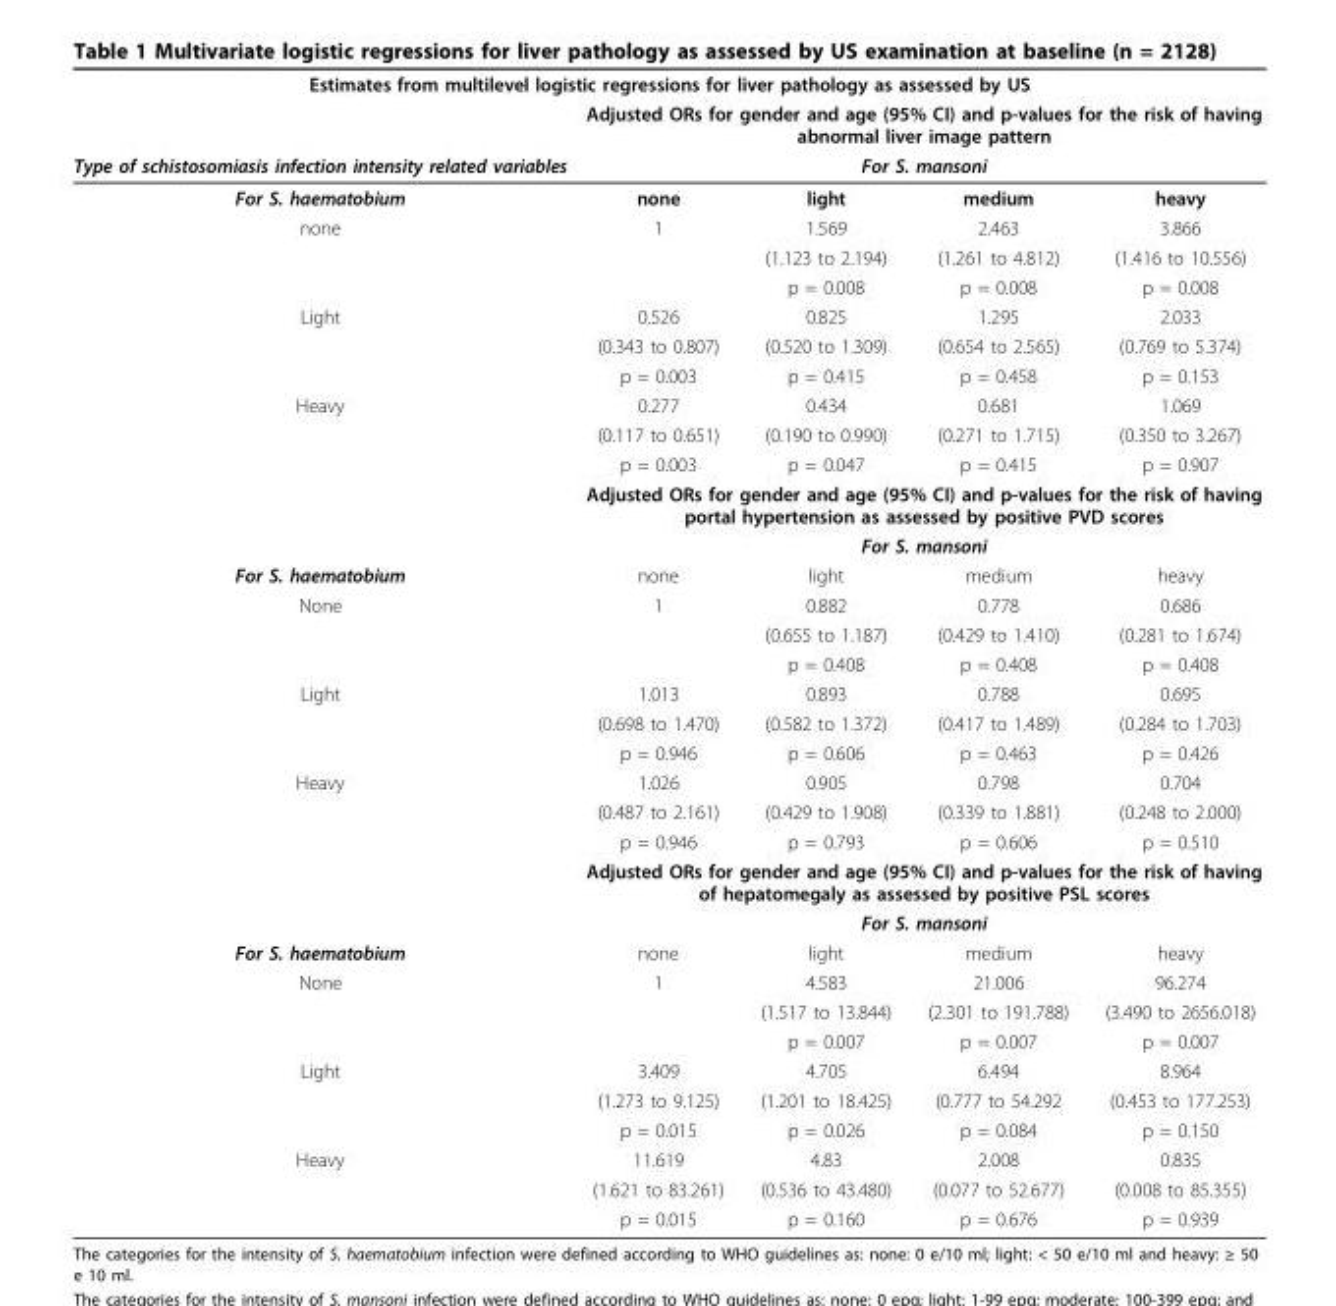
<table><thead><tr><td colspan="5">Estimates from multilevel logistic regressions for liver pathology as assessed by US</td></tr><tr><td rowspan="3">Type of schistosomiasis infection intensity related variables For S. haematobium</td><td rowspan="2" colspan="4">Adjusted ORs for gender and age (95% CI) and p-values for the risk of having abnormal liver image pattern For S. mansoni</td></tr><tr></tr><tr><td>none</td><td>light</td><td>medium</td><td>heavy</td></tr></thead><tbody><tr><td rowspan="3">none</td><td>1</td><td>1.569</td><td>2.463</td><td>3.866</td></tr><tr><td></td><td>(1.123 to 2.194)</td><td>(1.261 to 4.812)</td><td>(1.416 to 10.556)</td></tr><tr><td></td><td>p = 0.008</td><td>p = 0.008</td><td>p = 0.008</td></tr><tr><td rowspan="3">Light</td><td>0.526</td><td>0.825</td><td>1.295</td><td>2.033</td></tr><tr><td>(0.343 to 0.807)</td><td>(0.520 to 1.309)</td><td>(0.654 to 2.565)</td><td>(0.769 to 5.374)</td></tr><tr><td>p = 0.003</td><td>p = 0.415</td><td>p = 0.458</td><td>p = 0.153</td></tr><tr><td rowspan="5">Heavy</td><td>0.277</td><td>0.434</td><td>0.681</td><td>1.069</td></tr><tr><td>(0.117 to 0.651)</td><td>(0.190 to 0.990)</td><td>(0.271 to 1.715)</td><td>(0.350 to 3.267)</td></tr><tr><td>p = 0.003</td><td>p = 0.047</td><td>p = 0.415</td><td>p = 0.907</td></tr><tr><td colspan="4">Adjusted ORs for gender and age (95% CI) and p-values for the risk of having portal hypertension as assessed by positive PVD scores</td></tr><tr><td colspan="4">For S. mansoni</td></tr><tr><td>For S. haematobium</td><td>none</td><td>light</td><td>medium</td><td>heavy</td></tr><tr><td rowspan="3">None</td><td>1</td><td>0.882</td><td>0.778</td><td>0.686</td></tr><tr><td></td><td>(0.655 to 1.187)</td><td>(0.429 to 1.410)</td><td>(0.281 to 1.674)</td></tr><tr><td></td><td>p = 0.408</td><td>p = 0.408</td><td>p = 0.408</td></tr><tr><td rowspan="3">Light</td><td>1.013</td><td>0.893</td><td>0.788</td><td>0.695</td></tr><tr><td>(0.698 to 1.470)</td><td>(0.582 to 1.372)</td><td>(0.417 to 1.489)</td><td>(0.284 to 1.703)</td></tr><tr><td>p = 0.946</td><td>p = 0.606</td><td>p = 0.463</td><td>p = 0.426</td></tr><tr><td rowspan="5">Heavy</td><td>1.026</td><td>0.905</td><td>0.798</td><td>0.704</td></tr><tr><td>(0.487 to 2.161)</td><td>(0.429 to 1.908)</td><td>(0.339 to 1.881)</td><td>(0.248 to 2.000)</td></tr><tr><td>p = 0.946</td><td>p = 0.793</td><td>p = 0.606</td><td>p = 0.510</td></tr><tr><td colspan="4">Adjusted ORs for gender and age (95% CI) and p-values for the risk of having of hepatomegaly as assessed by positive PSL scores</td></tr><tr><td colspan="4">For S. mansoni</td></tr><tr><td>For S. haematobium</td><td>none</td><td>light</td><td>medium</td><td>heavy</td></tr><tr><td rowspan="3">None</td><td>1</td><td>4.583</td><td>21.006</td><td>96.274</td></tr><tr><td></td><td>(1.517 to 13.844)</td><td>(2.301 to 191.788)</td><td>(3.490 to 2656.018)</td></tr><tr><td></td><td>p = 0.007</td><td>p = 0.007</td><td>p = 0.007</td></tr><tr><td rowspan="3">Light</td><td>3.409</td><td>4.705</td><td>6.494</td><td>8.964</td></tr><tr><td>(1.273 to 9.125)</td><td>(1.201 to 18.425)</td><td>(0.777 to 54.292</td><td>(0.453 to 177.253)</td></tr><tr><td>p = 0.015</td><td>p = 0.026</td><td>p = 0.084</td><td>p = 0.150</td></tr><tr><td rowspan="3">Heavy</td><td>11.619</td><td>4.83</td><td>2.008</td><td>0.835</td></tr><tr><td>(1.621 to 83.261)</td><td>(0.536 to 43.480)</td><td>(0.077 to 52.677)</td><td>(0.008 to 85.355)</td></tr><tr><td>p = 0.015</td><td>p = 0.160</td><td>p = 0.676</td><td>p = 0.939</td></tr></tbody></table>